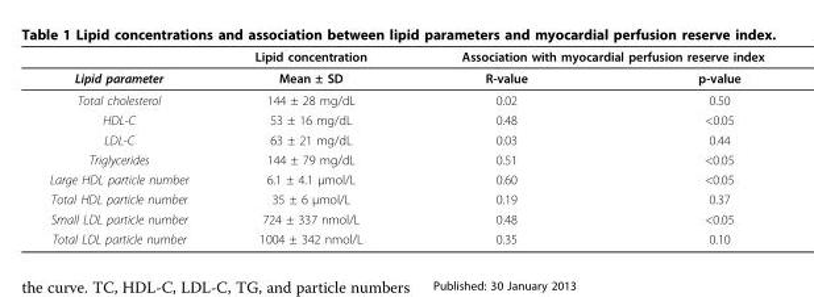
<table><thead><tr><td rowspan="2">Lipid parameter</td><td rowspan="2">Lipid concentration Mean ± SD</td><td colspan="2">Association with myocardial perfusion reserve index</td></tr><tr><td>R-value</td><td>p-value</td></tr></thead><tbody><tr><td>Total cholesterol</td><td>144 ± 28 mg/dL</td><td>0.02</td><td>0.50</td></tr><tr><td>HDL-C</td><td>53 ± 16 mg/dL</td><td>0.48</td><td>&lt;0.05</td></tr><tr><td>LDL-C</td><td>63 ± 21 mg/dL</td><td>0.03</td><td>0.44</td></tr><tr><td>Triglycerides</td><td>144 ± 79 mg/dL</td><td>0.51</td><td>&lt;0.05</td></tr><tr><td>Large HDL particle number</td><td>6.1 ± 4.1 μmol/L</td><td>0.60</td><td>&lt;0.05</td></tr><tr><td>Total HDL particle number</td><td>35 ± 6 μmol/L</td><td>0.19</td><td>0.37</td></tr><tr><td>Small LDL particle number</td><td>724 ± 337 nmol/L</td><td>0.48</td><td>&lt;0.05</td></tr><tr><td>Total LDL particle number</td><td>1004 ± 342 nmol/L</td><td>0.35</td><td>0.10</td></tr></tbody></table>